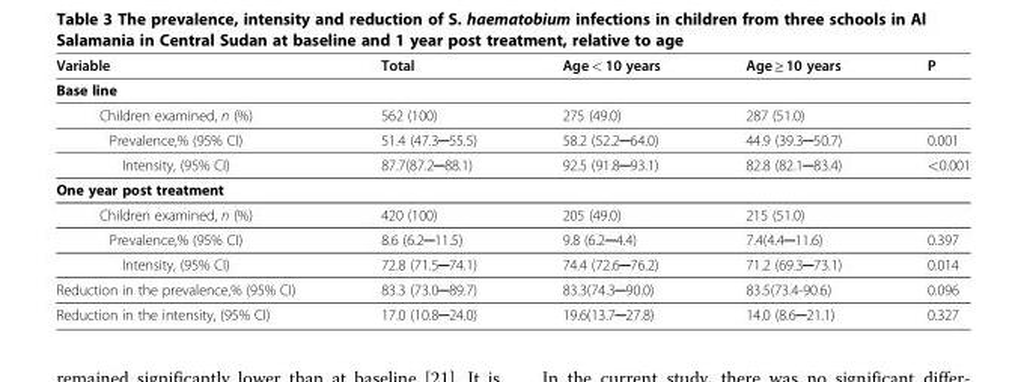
<table><thead><tr><td>Variable</td><td>Total</td><td>Age &lt; 10 years</td><td>Age ≥ 10 years</td><td>P</td></tr></thead><tbody><tr><td colspan="5">Base line</td></tr><tr><td>Children examined, n (%)</td><td>562 (100)</td><td>275 (49.0)</td><td>287 (51.0)</td><td></td></tr><tr><td>Prevalence,% (95% CI)</td><td>51.4 (47.3─55.5)</td><td>58.2 (52.2─64.0)</td><td>44.9 (39.3─50.7)</td><td>0.001</td></tr><tr><td>Intensity, (95% CI)</td><td>87.7(87.2─88.1)</td><td>92.5 (91.8─93.1)</td><td>82.8 (82.1─83.4)</td><td>&lt;0.001</td></tr><tr><td colspan="5">One year post treatment</td></tr><tr><td>Children examined, n (%)</td><td>420 (100)</td><td>205 (49.0)</td><td>215 (51.0)</td><td></td></tr><tr><td>Prevalence,% (95% CI)</td><td>8.6 (6.2─11.5)</td><td>9.8 (6.2─4.4)</td><td>7.4(4.4─11.6)</td><td>0.397</td></tr><tr><td>Intensity, (95% CI)</td><td>72.8 (71.5─74.1)</td><td>74.4 (72.6─76.2)</td><td>71.2 (69.3─73.1)</td><td>0.014</td></tr><tr><td>Reduction in the prevalence,% (95% CI)</td><td>83.3 (73.0─89.7)</td><td>83.3(74.3─90.0)</td><td>83.5(73.4-90.6)</td><td>0.096</td></tr><tr><td>Reduction in the intensity, (95% CI)</td><td>17.0 (10.8─24.0)</td><td>19.6(13.7─27.8)</td><td>14.0 (8.6─21.1)</td><td>0.327</td></tr></tbody></table>